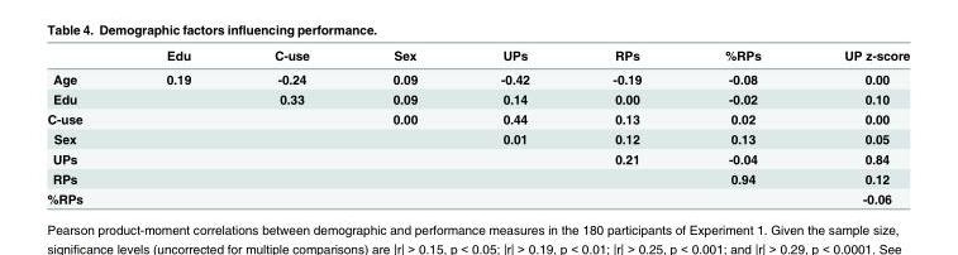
<table><thead><tr><td></td><td>Edu</td><td>C-use</td><td>Sex</td><td>UPs</td><td>RPs</td><td>%RPs</td><td>UP z-score</td></tr></thead><tbody><tr><td>Age</td><td>0.19</td><td>-0.24</td><td>0.09</td><td>-0.42</td><td>-0.19</td><td>-0.08</td><td>0.00</td></tr><tr><td>Edu</td><td></td><td>0.33</td><td>0.09</td><td>0.14</td><td>0.00</td><td>-0.02</td><td>0.10</td></tr><tr><td>C-use</td><td></td><td></td><td>0.00</td><td>0.44</td><td>0.13</td><td>0.02</td><td>0.00</td></tr><tr><td>Sex</td><td></td><td></td><td></td><td>0.01</td><td>0.12</td><td>0.13</td><td>0.05</td></tr><tr><td>UPs</td><td></td><td></td><td></td><td></td><td>0.21</td><td>-0.04</td><td>0.84</td></tr><tr><td>RPs</td><td></td><td></td><td></td><td></td><td></td><td>0.94</td><td>0.12</td></tr><tr><td>%RPs</td><td></td><td></td><td></td><td></td><td></td><td></td><td>-0.06</td></tr></tbody></table>